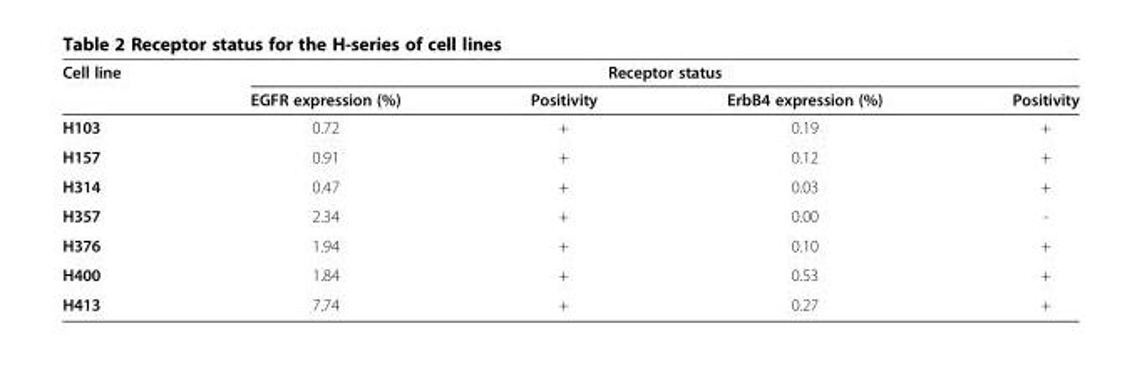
<table><thead><tr><td rowspan="2">Cell line</td><td colspan="4">Receptor status</td></tr><tr><td>EGFR expression (%)</td><td>Positivity</td><td>ErbB4 expression (%)</td><td>Positivity</td></tr></thead><tbody><tr><td>H103</td><td>0.72</td><td>+</td><td>0.19</td><td>+</td></tr><tr><td>H157</td><td>0.91</td><td>+</td><td>0.12</td><td>+</td></tr><tr><td>H314</td><td>0.47</td><td>+</td><td>0.03</td><td>+</td></tr><tr><td>H357</td><td>2.34</td><td>+</td><td>0.00</td><td>-</td></tr><tr><td>H376</td><td>1.94</td><td>+</td><td>0.10</td><td>+</td></tr><tr><td>H400</td><td>1.84</td><td>+</td><td>0.53</td><td>+</td></tr><tr><td>H413</td><td>7.74</td><td>+</td><td>0.27</td><td>+</td></tr></tbody></table>